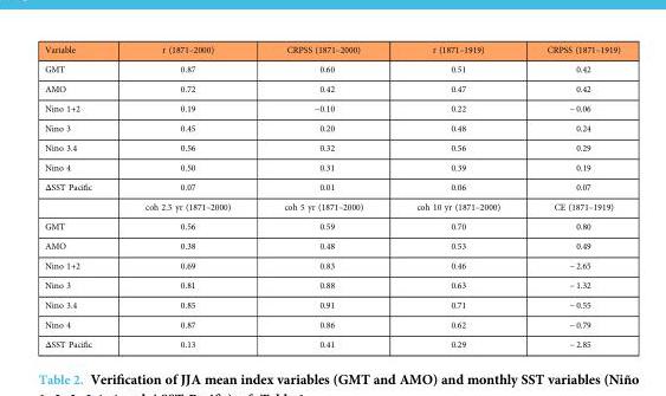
<table><thead><tr><td>Variable</td><td>r (1871–2000)</td><td>CRPSS (1871–2000)</td><td>r (1871–1919)</td><td>CRPSS (1871–1919)</td></tr></thead><tbody><tr><td>GMT</td><td>0.87</td><td>0.60</td><td>0.51</td><td>0.42</td></tr><tr><td>AMO</td><td>0.72</td><td>0.42</td><td>0.47</td><td>0.42</td></tr><tr><td>Nino 1+2</td><td>0.19</td><td>−0.10</td><td>0.22</td><td>− 0.06</td></tr><tr><td>Nino 3</td><td>0.45</td><td>0.20</td><td>0.48</td><td>0.24</td></tr><tr><td>Nino 3.4</td><td>0.56</td><td>0.32</td><td>0.56</td><td>0.29</td></tr><tr><td>Nino 4</td><td>0.50</td><td>0.31</td><td>0.39</td><td>0.19</td></tr><tr><td rowspan="2">ΔSST Pacific</td><td>0.07</td><td>0.01</td><td>0.06</td><td>0.07</td></tr><tr><td>coh 2.5 yr (1871–2000)</td><td>coh 5 yr (1871–2000)</td><td>coh 10 yr (1871–2000)</td><td>CE (1871–1919)</td></tr><tr><td>GMT</td><td>0.56</td><td>0.59</td><td>0.70</td><td>0.80</td></tr><tr><td>AMO</td><td>0.38</td><td>0.48</td><td>0.53</td><td>0.49</td></tr><tr><td>Nino 1+2</td><td>0.69</td><td>0.83</td><td>0.46</td><td>− 2.65</td></tr><tr><td>Nino 3</td><td>0.81</td><td>0.88</td><td>0.63</td><td>− 1.32</td></tr><tr><td>Nino 3.4</td><td>0.85</td><td>0.91</td><td>0.71</td><td>− 0.55</td></tr><tr><td>Nino 4</td><td>0.87</td><td>0.86</td><td>0.62</td><td>− 0.79</td></tr><tr><td>ΔSST Pacific</td><td>0.13</td><td>0.41</td><td>0.29</td><td>− 2.85</td></tr></tbody></table>